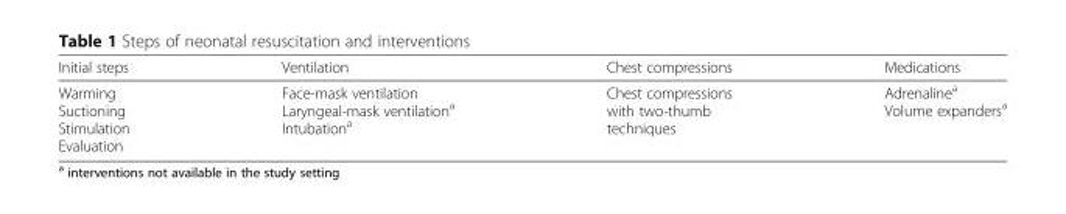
<table><thead><tr><td>Initial steps</td><td>Ventilation</td><td>Chest compressions</td><td>Medications</td></tr></thead><tbody><tr><td>Warming Suctioning Stimulation Evaluation</td><td>Face-mask ventilation Laryngeal-mask ventilation<sup>a</sup> Intubation<sup>a</sup></td><td>Chest compressions with two-thumb techniques</td><td>Adrenaline<sup>a</sup> Volume expanders<sup>a</sup></td></tr></tbody></table>